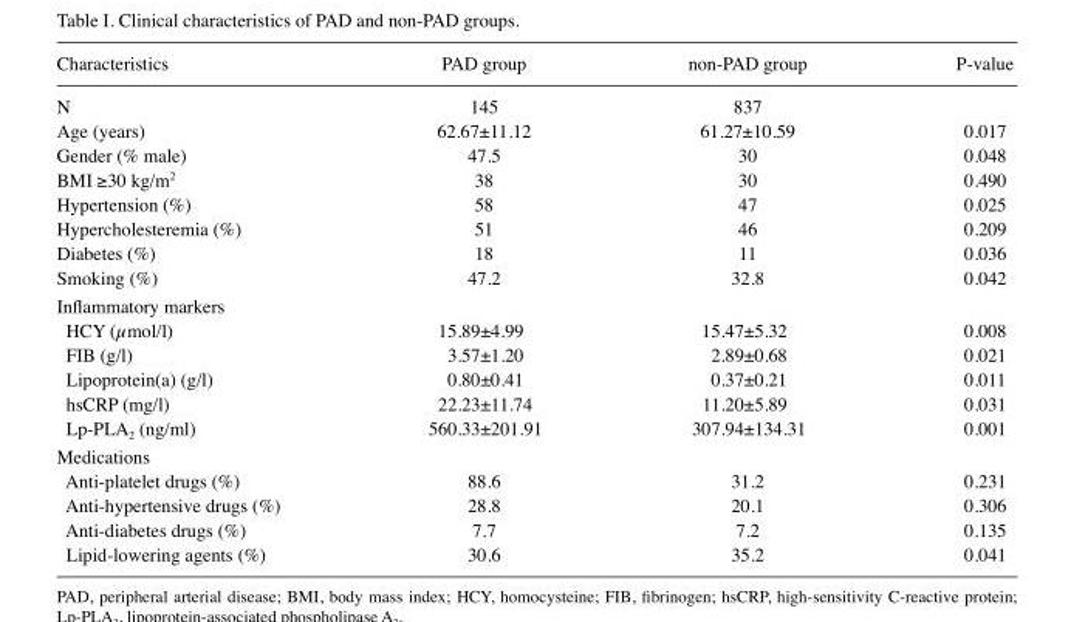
<table><thead><tr><td>Characteristics</td><td>PAD group</td><td>non-PAD group</td><td>P-value</td></tr></thead><tbody><tr><td>N</td><td>145</td><td>837</td><td></td></tr><tr><td>Age (years)</td><td>62.67±11.12</td><td>61.27±10.59</td><td>0.017</td></tr><tr><td>Gender (% male)</td><td>47.5</td><td>30</td><td>0.048</td></tr><tr><td>BMI ≥30 kg/m<sup>2</sup></td><td>38</td><td>30</td><td>0.490</td></tr><tr><td>Hypertension (%)</td><td>58</td><td>47</td><td>0.025</td></tr><tr><td>Hypercholesteremia (%)</td><td>51</td><td>46</td><td>0.209</td></tr><tr><td>Diabetes (%)</td><td>18</td><td>11</td><td>0.036</td></tr><tr><td>Smoking (%)</td><td>47.2</td><td>32.8</td><td>0.042</td></tr><tr><td colspan="4">Inflammatory markers</td></tr><tr><td>HCY (µmol/l)</td><td>15.89±4.99</td><td>15.47±5.32</td><td>0.008</td></tr><tr><td>FIB (g/l)</td><td>3.57±1.20</td><td>2.89±0.68</td><td>0.021</td></tr><tr><td>Lipoprotein(a) (g/l)</td><td>0.80±0.41</td><td>0.37±0.21</td><td>0.011</td></tr><tr><td>hsCRP (mg/l)</td><td>22.23±11.74</td><td>11.20±5.89</td><td>0.031</td></tr><tr><td>Lp-PLA<sub>2</sub> (ng/ml)</td><td>560.33±201.91</td><td>307.94±134.31</td><td>0.001</td></tr><tr><td colspan="4">Medications</td></tr><tr><td>Anti-platelet drugs (%)</td><td>88.6</td><td>31.2</td><td>0.231</td></tr><tr><td>Anti-hypertensive drugs (%)</td><td>28.8</td><td>20.1</td><td>0.306</td></tr><tr><td>Anti-diabetes drugs (%)</td><td>7.7</td><td>7.2</td><td>0.135</td></tr><tr><td>Lipid-lowering agents (%)</td><td>30.6</td><td>35.2</td><td>0.041</td></tr></tbody></table>